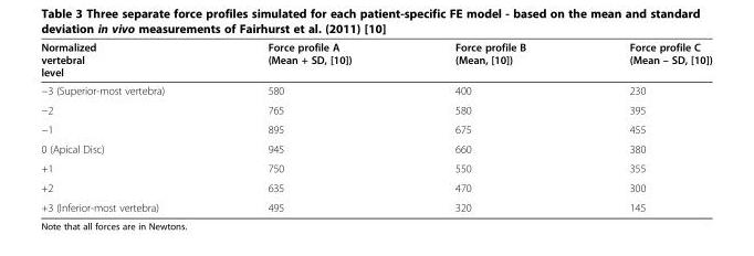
<table><thead><tr><td>Normalized vertebral level</td><td>Force profile A (Mean + SD, [10])</td><td>Force profile B (Mean, [10])</td><td>Force profile C (Mean – SD, [10])</td></tr></thead><tbody><tr><td>−3 (Superior-most vertebra)</td><td>580</td><td>400</td><td>230</td></tr><tr><td>−2</td><td>765</td><td>580</td><td>395</td></tr><tr><td>−1</td><td>895</td><td>675</td><td>455</td></tr><tr><td>0 (Apical Disc)</td><td>945</td><td>660</td><td>380</td></tr><tr><td>+1</td><td>750</td><td>550</td><td>355</td></tr><tr><td>+2</td><td>635</td><td>470</td><td>300</td></tr><tr><td>+3 (Inferior-most vertebra)</td><td>495</td><td>320</td><td>145</td></tr></tbody></table>